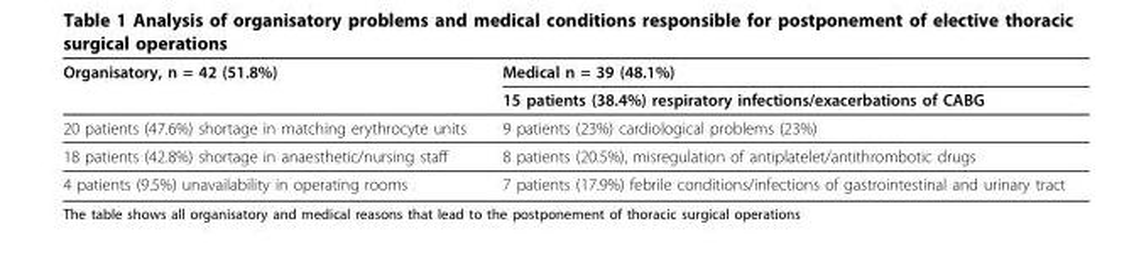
<table><thead><tr><td rowspan="2">Organisatory, n = 42 (51.8%)</td><td rowspan="2">Medical n = 39 (48.1%) 15 patients (38.4%) respiratory infections/exacerbations of CABG</td></tr><tr></tr></thead><tbody><tr><td>20 patients (47.6%) shortage in matching erythrocyte units</td><td>9 patients (23%) cardiological problems (23%)</td></tr><tr><td>18 patients (42.8%) shortage in anaesthetic/nursing staff</td><td>8 patients (20.5%), misregulation of antiplatelet/antithrombotic drugs</td></tr><tr><td>4 patients (9.5%) unavailability in operating rooms</td><td>7 patients (17.9%) febrile conditions/infections of gastrointestinal and urinary tract</td></tr></tbody></table>